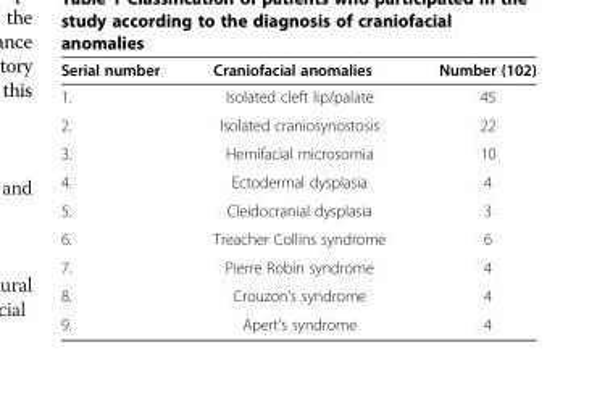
<table><thead><tr><td>Serial number</td><td>Craniofacial anomalies</td><td>Number (102)</td></tr></thead><tbody><tr><td>1.</td><td>Isolated cleft lip/palate</td><td>45</td></tr><tr><td>2.</td><td>Isolated craniosynostosis</td><td>22</td></tr><tr><td>3.</td><td>Hemifacial microsomia</td><td>10</td></tr><tr><td>4.</td><td>Ectodermal dysplasia</td><td>4</td></tr><tr><td>5.</td><td>Cleidocranial dysplasia</td><td>3</td></tr><tr><td>6.</td><td>Treacher Collins syndrome</td><td>6</td></tr><tr><td>7.</td><td>Pierre Robin syndrome</td><td>4</td></tr><tr><td>8.</td><td>Crouzon’s syndrome</td><td>4</td></tr><tr><td>9.</td><td>Apert’s syndrome</td><td>4</td></tr></tbody></table>